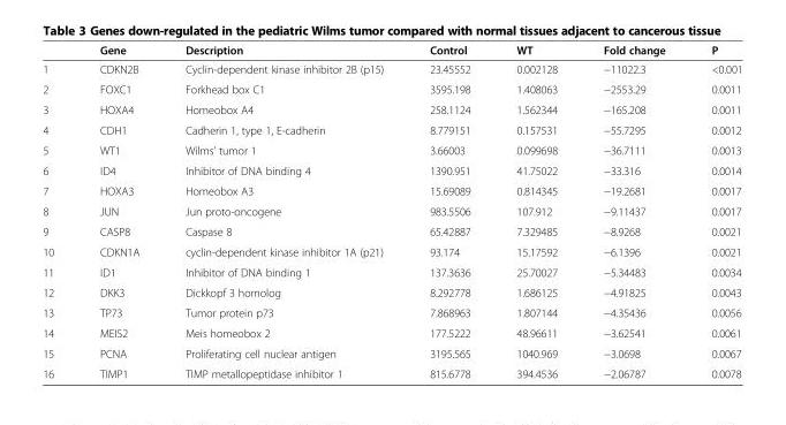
<table><thead><tr><td></td><td>Gene</td><td>Description</td><td>Control</td><td>WT</td><td>Fold change</td><td>P</td></tr></thead><tbody><tr><td>1</td><td>CDKN2B</td><td>Cyclin-dependent kinase inhibitor 2B (p15)</td><td>23.45552</td><td>0.002128</td><td>−11022.3</td><td>&lt;0.001</td></tr><tr><td>2</td><td>FOXC1</td><td>Forkhead box C1</td><td>3595.198</td><td>1.408063</td><td>−2553.29</td><td>0.0011</td></tr><tr><td>3</td><td>HOXA4</td><td>Homeobox A4</td><td>258.1124</td><td>1.562344</td><td>−165.208</td><td>0.0011</td></tr><tr><td>4</td><td>CDH1</td><td>Cadherin 1, type 1, E-cadherin</td><td>8.779151</td><td>0.157531</td><td>−55.7295</td><td>0.0012</td></tr><tr><td>5</td><td>WT1</td><td>Wilms’ tumor 1</td><td>3.66003</td><td>0.099698</td><td>−36.7111</td><td>0.0013</td></tr><tr><td>6</td><td>ID4</td><td>Inhibitor of DNA binding 4</td><td>1390.951</td><td>41.75022</td><td>−33.316</td><td>0.0014</td></tr><tr><td>7</td><td>HOXA3</td><td>Homeobox A3</td><td>15.69089</td><td>0.814345</td><td>−19.2681</td><td>0.0017</td></tr><tr><td>8</td><td>JUN</td><td>Jun proto-oncogene</td><td>983.5506</td><td>107.912</td><td>−9.11437</td><td>0.0017</td></tr><tr><td>9</td><td>CASP8</td><td>Caspase 8</td><td>65.42887</td><td>7.329485</td><td>−8.9268</td><td>0.0021</td></tr><tr><td>10</td><td>CDKN1A</td><td>cyclin-dependent kinase inhibitor 1A (p21)</td><td>93.174</td><td>15.17592</td><td>−6.1396</td><td>0.0021</td></tr><tr><td>11</td><td>ID1</td><td>Inhibitor of DNA binding 1</td><td>137.3636</td><td>25.70027</td><td>−5.34483</td><td>0.0034</td></tr><tr><td>12</td><td>DKK3</td><td>Dickkopf 3 homolog</td><td>8.292778</td><td>1.686125</td><td>−4.91825</td><td>0.0043</td></tr><tr><td>13</td><td>TP73</td><td>Tumor protein p73</td><td>7.868963</td><td>1.807144</td><td>−4.35436</td><td>0.0056</td></tr><tr><td>14</td><td>MEIS2</td><td>Meis homeobox 2</td><td>177.5222</td><td>48.96611</td><td>−3.62541</td><td>0.0061</td></tr><tr><td>15</td><td>PCNA</td><td>Proliferating cell nuclear antigen</td><td>3195.565</td><td>1040.969</td><td>−3.0698</td><td>0.0067</td></tr><tr><td>16</td><td>TIMP1</td><td>TIMP metallopeptidase inhibitor 1</td><td>815.6778</td><td>394.4536</td><td>−2.06787</td><td>0.0078</td></tr></tbody></table>